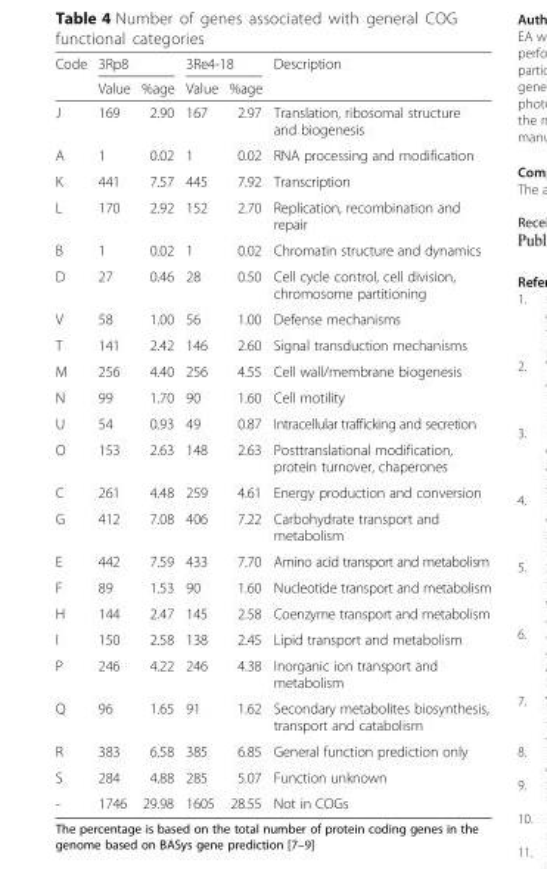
<table><thead><tr><td rowspan="2">Code</td><td colspan="2">3Rp8</td><td colspan="2">3Re4-18</td><td rowspan="2">Description</td></tr><tr><td>Value</td><td>%age</td><td>Value</td><td>%age</td></tr></thead><tbody><tr><td>J</td><td>169</td><td>2.90</td><td>167</td><td>2.97</td><td>Translation, ribosomal structure and biogenesis</td></tr><tr><td>A</td><td>1</td><td>0.02</td><td>1</td><td>0.02</td><td>RNA processing and modification</td></tr><tr><td>K</td><td>441</td><td>7.57</td><td>445</td><td>7.92</td><td>Transcription</td></tr><tr><td>L</td><td>170</td><td>2.92</td><td>152</td><td>2.70</td><td>Replication, recombination and repair</td></tr><tr><td>B</td><td>1</td><td>0.02</td><td>1</td><td>0.02</td><td>Chromatin structure and dynamics</td></tr><tr><td>D</td><td>27</td><td>0.46</td><td>28</td><td>0.50</td><td>Cell cycle control, cell division, chromosome partitioning</td></tr><tr><td>V</td><td>58</td><td>1.00</td><td>56</td><td>1.00</td><td>Defense mechanisms</td></tr><tr><td>T</td><td>141</td><td>2.42</td><td>146</td><td>2.60</td><td>Signal transduction mechanisms</td></tr><tr><td>M</td><td>256</td><td>4.40</td><td>256</td><td>4.55</td><td>Cell wall/membrane biogenesis</td></tr><tr><td>N</td><td>99</td><td>1.70</td><td>90</td><td>1.60</td><td>Cell motility</td></tr><tr><td>U</td><td>54</td><td>0.93</td><td>49</td><td>0.87</td><td>Intracellular trafficking and secretion</td></tr><tr><td>O</td><td>153</td><td>2.63</td><td>148</td><td>2.63</td><td>Posttranslational modification, protein turnover, chaperones</td></tr><tr><td>C</td><td>261</td><td>4.48</td><td>259</td><td>4.61</td><td>Energy production and conversion</td></tr><tr><td>G</td><td>412</td><td>7.08</td><td>406</td><td>7.22</td><td>Carbohydrate transport and metabolism</td></tr><tr><td>E</td><td>442</td><td>7.59</td><td>433</td><td>7.70</td><td>Amino acid transport and metabolism</td></tr><tr><td>F</td><td>89</td><td>1.53</td><td>90</td><td>1.60</td><td>Nucleotide transport and metabolism</td></tr><tr><td>H</td><td>144</td><td>2.47</td><td>145</td><td>2.58</td><td>Coenzyme transport and metabolism</td></tr><tr><td>I</td><td>150</td><td>2.58</td><td>138</td><td>2.45</td><td>Lipid transport and metabolism</td></tr><tr><td>P</td><td>246</td><td>4.22</td><td>246</td><td>4.38</td><td>Inorganic ion transport and metabolism</td></tr><tr><td>Q</td><td>96</td><td>1.65</td><td>91</td><td>1.62</td><td>Secondary metabolites biosynthesis, transport and catabolism</td></tr><tr><td>R</td><td>383</td><td>6.58</td><td>385</td><td>6.85</td><td>General function prediction only</td></tr><tr><td>S</td><td>284</td><td>4.88</td><td>285</td><td>5.07</td><td>Function unknown</td></tr><tr><td>-</td><td>1746</td><td>29.98</td><td>1605</td><td>28.55</td><td>Not in COGs</td></tr></tbody></table>